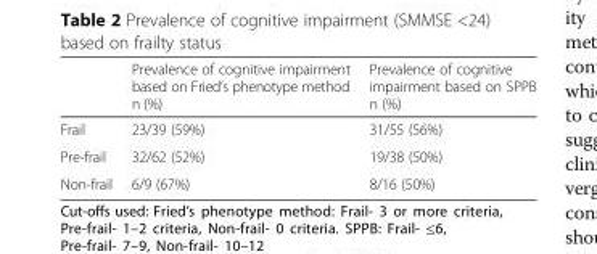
<table><thead><tr><td></td><td>Prevalence of cognitive impairment based on Fried’s phenotype method n (%)</td><td>Prevalence of cognitive impairment based on SPPB n (%)</td></tr></thead><tbody><tr><td>Frail</td><td>23/39 (59%)</td><td>31/55 (56%)</td></tr><tr><td>Pre-frail</td><td>32/62 (52%)</td><td>19/38 (50%)</td></tr><tr><td>Non-frail</td><td>6/9 (67%)</td><td>8/16 (50%)</td></tr></tbody></table>